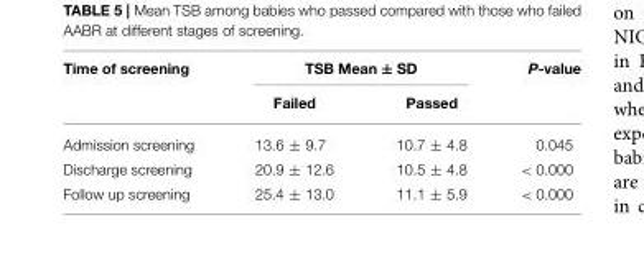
<table><thead><tr><td rowspan="2">Time of screening</td><td colspan="2">TSB Mean ± SD</td><td rowspan="2">P-value</td></tr><tr><td>Failed</td><td>Passed</td></tr></thead><tbody><tr><td>Admission screening</td><td>13.6 ± 9.7</td><td>10.7 ± 4.8</td><td>0.045</td></tr><tr><td>Discharge screening</td><td>20.9 ± 12.6</td><td>10.5 ± 4.8</td><td>&lt; 0.000</td></tr><tr><td>Follow up screening</td><td>25.4 ± 13.0</td><td>11.1 ± 5.9</td><td>&lt; 0.000</td></tr></tbody></table>